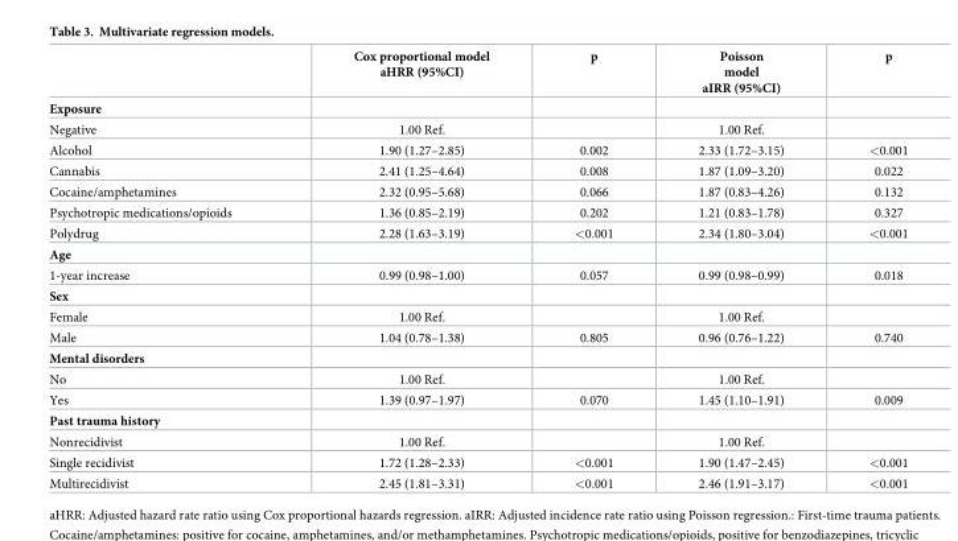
<table><thead><tr><td></td><td>Cox proportional model aHRR (95%CI)</td><td>p</td><td>Poisson model aIRR (95%CI)</td><td>p</td></tr></thead><tbody><tr><td colspan="5">Exposure</td></tr><tr><td>Negative</td><td>1.00 Ref.</td><td></td><td>1.00 Ref.</td><td></td></tr><tr><td>Alcohol</td><td>1.90 (1.27–2.85)</td><td>0.002</td><td>2.33 (1.72–3.15)</td><td>&lt;0.001</td></tr><tr><td>Cannabis</td><td>2.41 (1.25–4.64)</td><td>0.008</td><td>1.87 (1.09–3.20)</td><td>0.022</td></tr><tr><td>Cocaine/amphetamines</td><td>2.32 (0.95–5.68)</td><td>0.066</td><td>1.87 (0.83–4.26)</td><td>0.132</td></tr><tr><td>Psychotropic medications/opioids</td><td>1.36 (0.85–2.19)</td><td>0.202</td><td>1.21 (0.83–1.78)</td><td>0.327</td></tr><tr><td>Polydrug</td><td>2.28 (1.63–3.19)</td><td>&lt;0.001</td><td>2.34 (1.80–3.04)</td><td>&lt;0.001</td></tr><tr><td colspan="5">Age</td></tr><tr><td>1-year increase</td><td>0.99 (0.98–1.00)</td><td>0.057</td><td>0.99 (0.98–0.99)</td><td>0.018</td></tr><tr><td colspan="5">Sex</td></tr><tr><td>Female</td><td>1.00 Ref.</td><td></td><td>1.00 Ref.</td><td></td></tr><tr><td>Male</td><td>1.04 (0.78–1.38)</td><td>0.805</td><td>0.96 (0.76–1.22)</td><td>0.740</td></tr><tr><td colspan="5">Mental disorders</td></tr><tr><td>No</td><td>1.00 Ref.</td><td></td><td>1.00 Ref.</td><td></td></tr><tr><td>Yes</td><td>1.39 (0.97–1.97)</td><td>0.070</td><td>1.45 (1.10–1.91)</td><td>0.009</td></tr><tr><td colspan="5">Past trauma history</td></tr><tr><td>Nonrecidivist</td><td>1.00 Ref.</td><td></td><td>1.00 Ref.</td><td></td></tr><tr><td>Single recidivist</td><td>1.72 (1.28–2.33)</td><td>&lt;0.001</td><td>1.90 (1.47–2.45)</td><td>&lt;0.001</td></tr><tr><td>Multirecidivist</td><td>2.45 (1.81–3.31)</td><td>&lt;0.001</td><td>2.46 (1.91–3.17)</td><td>&lt;0.001</td></tr></tbody></table>